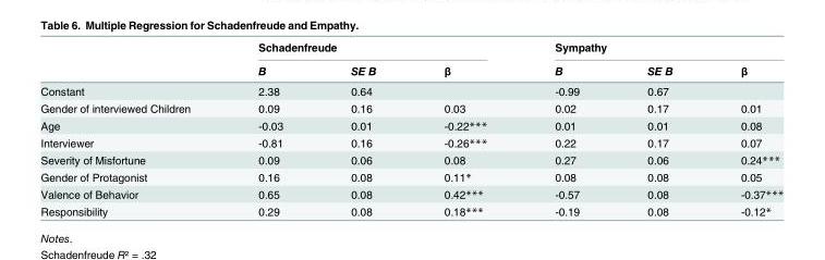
<table><thead><tr><td rowspan="2"></td><td colspan="3">Schadenfreude</td><td colspan="3">Sympathy</td></tr><tr><td>B</td><td>SE B</td><td>β</td><td>B</td><td>SE B</td><td>β</td></tr></thead><tbody><tr><td>Constant</td><td>2.38</td><td>0.64</td><td></td><td>-0.99</td><td>0.67</td><td></td></tr><tr><td>Gender of interviewed Children</td><td>0.09</td><td>0.16</td><td>0.03</td><td>0.02</td><td>0.17</td><td>0.01</td></tr><tr><td>Age</td><td>-0.03</td><td>0.01</td><td>-0.22***</td><td>0.01</td><td>0.01</td><td>0.08</td></tr><tr><td>Interviewer</td><td>-0.81</td><td>0.16</td><td>-0.26***</td><td>0.22</td><td>0.17</td><td>0.07</td></tr><tr><td>Severity of Misfortune</td><td>0.09</td><td>0.06</td><td>0.08</td><td>0.27</td><td>0.06</td><td>0.24***</td></tr><tr><td>Gender of Protagonist</td><td>0.16</td><td>0.08</td><td>0.11*</td><td>0.08</td><td>0.08</td><td>0.05</td></tr><tr><td>Valence of Behavior</td><td>0.65</td><td>0.08</td><td>0.42***</td><td>-0.57</td><td>0.08</td><td>-0.37***</td></tr><tr><td>Responsibility</td><td>0.29</td><td>0.08</td><td>0.18***</td><td>-0.19</td><td>0.08</td><td>-0.12*</td></tr></tbody></table>